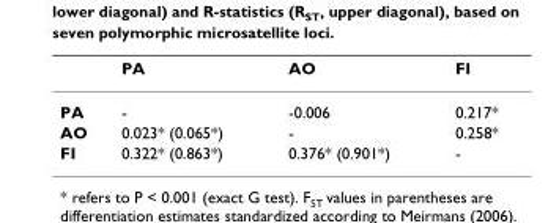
<table><thead><tr><td></td><td>PA</td><td>AO</td><td>FI</td></tr></thead><tbody><tr><td>PA</td><td>-</td><td>-0.006</td><td>0.217*</td></tr><tr><td>AO</td><td>0.023* (0.065*)</td><td>-</td><td>0.258*</td></tr><tr><td>FI</td><td>0.322* (0.863*)</td><td>0.376* (0.901*)</td><td>-</td></tr></tbody></table>